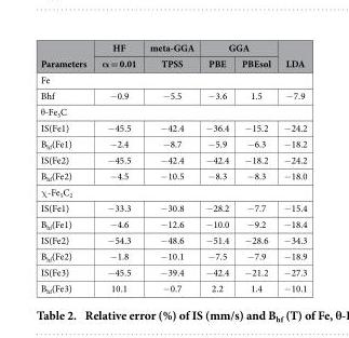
<table><thead><tr><td rowspan="2">Parameters</td><td rowspan="2">HF α = 0.01</td><td rowspan="2">meta-GGA TPSS</td><td colspan="2">GGA</td><td rowspan="2">LDA</td></tr><tr><td>PBE</td><td>PBEsol</td></tr></thead><tbody><tr><td colspan="6">Fe</td></tr><tr><td>Bhf</td><td>− 0.9</td><td>− 5.5</td><td>− 3.6</td><td>1.5</td><td>− 7.9</td></tr><tr><td colspan="6">θ -Fe<sub>3</sub>C</td></tr><tr><td>IS(Fe1)</td><td>− 45.5</td><td>− 42.4</td><td>− 36.4</td><td>− 15.2</td><td>− 24.2</td></tr><tr><td>B<sub>hf</sub>(Fe1)</td><td>− 2.4</td><td>− 8.7</td><td>− 5.9</td><td>− 6.3</td><td>− 18.2</td></tr><tr><td>IS(Fe2)</td><td>− 45.5</td><td>− 42.4</td><td>− 42.4</td><td>− 18.2</td><td>− 24.2</td></tr><tr><td>B<sub>hf</sub>(Fe2)</td><td>− 4.5</td><td>− 10.5</td><td>− 8.3</td><td>− 8.3</td><td>− 18.0</td></tr><tr><td colspan="6">χ -Fe<sub>5</sub>C<sub>2</sub></td></tr><tr><td>IS(Fe1)</td><td>− 33.3</td><td>− 30.8</td><td>− 28.2</td><td>− 7.7</td><td>− 15.4</td></tr><tr><td>B<sub>hf</sub>(Fe1)</td><td>− 4.6</td><td>− 12.6</td><td>− 10.0</td><td>− 9.2</td><td>− 18.4</td></tr><tr><td>IS(Fe2)</td><td>− 54.3</td><td>− 48.6</td><td>− 51.4</td><td>− 28.6</td><td>− 34.3</td></tr><tr><td>B<sub>hf</sub>(Fe2)</td><td>− 1.8</td><td>− 10.1</td><td>− 7.5</td><td>− 7.9</td><td>− 18.9</td></tr><tr><td>IS(Fe3)</td><td>− 45.5</td><td>− 39.4</td><td>− 42.4</td><td>− 21.2</td><td>− 27.3</td></tr><tr><td>B<sub>hf</sub>(Fe3)</td><td>10.1</td><td>− 0.7</td><td>2.2</td><td>1.4</td><td>− 10.1</td></tr></tbody></table>